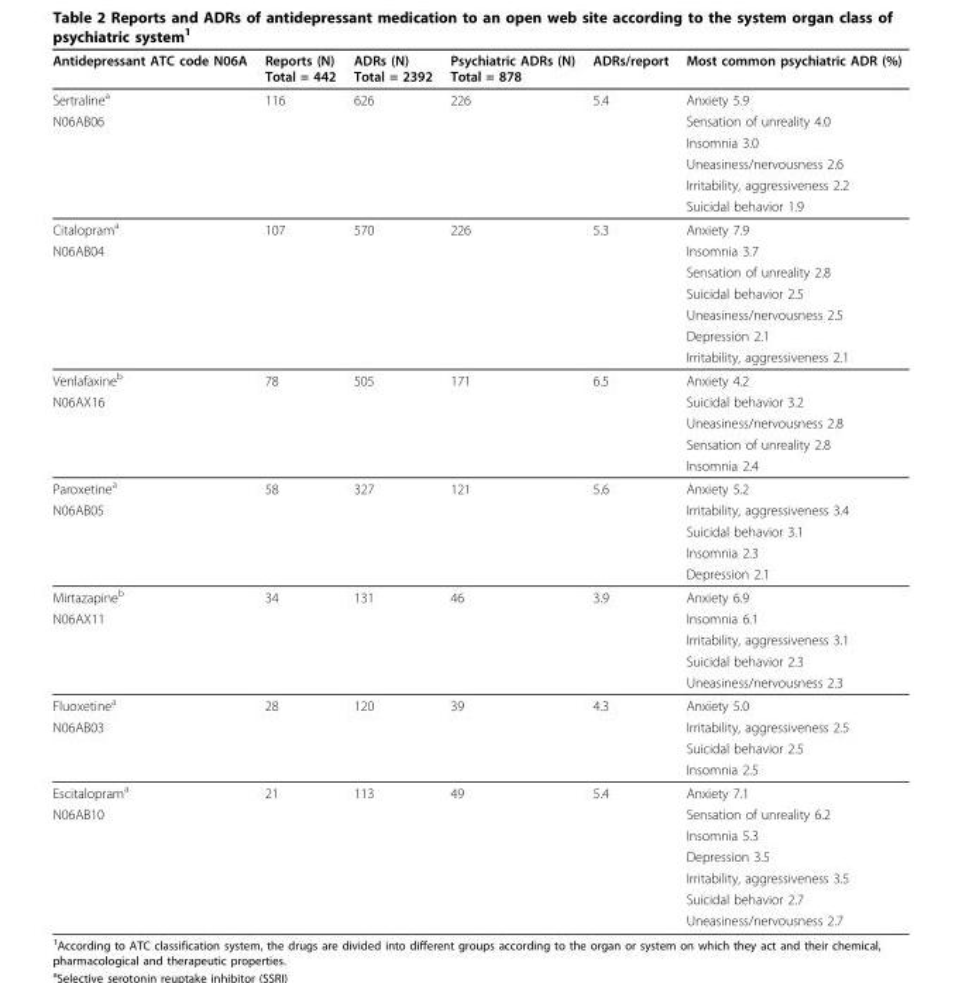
<table><thead><tr><td>Antidepressant ATC code N06A</td><td>Reports (N) Total = 442</td><td>ADRs (N) Total = 2392</td><td>Psychiatric ADRs (N) Total = 878</td><td>ADRs/report</td><td>Most common psychiatric ADR (%)</td></tr></thead><tbody><tr><td>Sertraline<sup>a</sup></td><td>116</td><td>626</td><td>226</td><td>5.4</td><td>Anxiety 5.9</td></tr><tr><td rowspan="5">N06AB06</td><td></td><td></td><td></td><td></td><td>Sensation of unreality 4.0</td></tr><tr><td></td><td></td><td></td><td></td><td>Insomnia 3.0</td></tr><tr><td></td><td></td><td></td><td></td><td>Uneasiness/nervousness 2.6</td></tr><tr><td></td><td></td><td></td><td></td><td>Irritability, aggressiveness 2.2</td></tr><tr><td></td><td></td><td></td><td></td><td>Suicidal behavior 1.9</td></tr><tr><td>Citalopram<sup>a</sup></td><td>107</td><td>570</td><td>226</td><td>5.3</td><td>Anxiety 7.9</td></tr><tr><td rowspan="6">N06AB04</td><td></td><td></td><td></td><td></td><td>Insomnia 3.7</td></tr><tr><td></td><td></td><td></td><td></td><td>Sensation of unreality 2.8</td></tr><tr><td></td><td></td><td></td><td></td><td>Suicidal behavior 2.5</td></tr><tr><td></td><td></td><td></td><td></td><td>Uneasiness/nervousness 2.5</td></tr><tr><td></td><td></td><td></td><td></td><td>Depression 2.1</td></tr><tr><td></td><td></td><td></td><td></td><td>Irritability, aggressiveness 2.1</td></tr><tr><td>Venlafaxine<sup>b</sup></td><td>78</td><td>505</td><td>171</td><td>6.5</td><td>Anxiety 4.2</td></tr><tr><td rowspan="4">N06AX16</td><td></td><td></td><td></td><td></td><td>Suicidal behavior 3.2</td></tr><tr><td></td><td></td><td></td><td></td><td>Uneasiness/nervousness 2.8</td></tr><tr><td></td><td></td><td></td><td></td><td>Sensation of unreality 2.8</td></tr><tr><td></td><td></td><td></td><td></td><td>Insomnia 2.4</td></tr><tr><td>Paroxetine<sup>a</sup></td><td>58</td><td>327</td><td>121</td><td>5.6</td><td>Anxiety 5.2</td></tr><tr><td rowspan="4">N06AB05</td><td></td><td></td><td></td><td></td><td>Irritability, aggressiveness 3.4</td></tr><tr><td></td><td></td><td></td><td></td><td>Suicidal behavior 3.1</td></tr><tr><td></td><td></td><td></td><td></td><td>Insomnia 2.3</td></tr><tr><td></td><td></td><td></td><td></td><td>Depression 2.1</td></tr><tr><td>Mirtazapine<sup>b</sup></td><td>34</td><td>131</td><td>46</td><td>3.9</td><td>Anxiety 6.9</td></tr><tr><td rowspan="4">N06AX11</td><td></td><td></td><td></td><td></td><td>Insomnia 6.1</td></tr><tr><td></td><td></td><td></td><td></td><td>Irritability, aggressiveness 3.1</td></tr><tr><td></td><td></td><td></td><td></td><td>Suicidal behavior 2.3</td></tr><tr><td></td><td></td><td></td><td></td><td>Uneasiness/nervousness 2.3</td></tr><tr><td>Fluoxetine<sup>a</sup></td><td>28</td><td>120</td><td>39</td><td>4.3</td><td>Anxiety 5.0</td></tr><tr><td rowspan="3">N06AB03</td><td></td><td></td><td></td><td></td><td>Irritability, aggressiveness 2.5</td></tr><tr><td></td><td></td><td></td><td></td><td>Suicidal behavior 2.5</td></tr><tr><td></td><td></td><td></td><td></td><td>Insomnia 2.5</td></tr><tr><td>Escitalopram<sup>a</sup></td><td>21</td><td>113</td><td>49</td><td>5.4</td><td>Anxiety 7.1</td></tr><tr><td rowspan="6">N06AB10</td><td></td><td></td><td></td><td></td><td>Sensation of unreality 6.2</td></tr><tr><td></td><td></td><td></td><td></td><td>Insomnia 5.3</td></tr><tr><td></td><td></td><td></td><td></td><td>Depression 3.5</td></tr><tr><td></td><td></td><td></td><td></td><td>Irritability, aggressiveness 3.5</td></tr><tr><td></td><td></td><td></td><td></td><td>Suicidal behavior 2.7</td></tr><tr><td></td><td></td><td></td><td></td><td>Uneasiness/nervousness 2.7</td></tr></tbody></table>